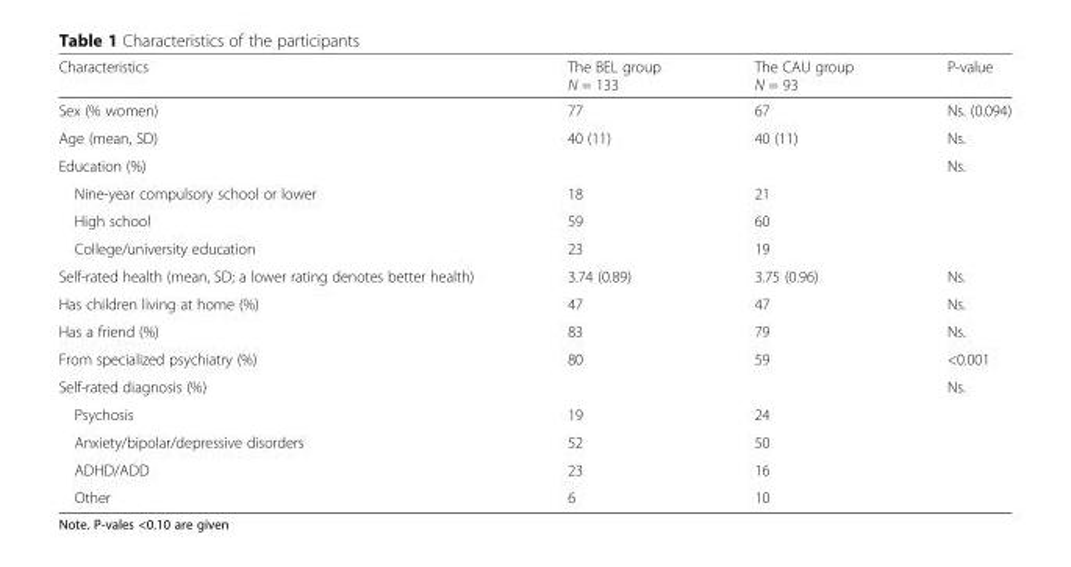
<table><thead><tr><td>Characteristics</td><td>The BEL group N = 133</td><td>The CAU group N = 93</td><td>P-value</td></tr></thead><tbody><tr><td>Sex (% women)</td><td>77</td><td>67</td><td>Ns. (0.094)</td></tr><tr><td>Age (mean, SD)</td><td>40 (11)</td><td>40 (11)</td><td>Ns.</td></tr><tr><td>Education (%)</td><td></td><td></td><td>Ns.</td></tr><tr><td>Nine-year compulsory school or lower</td><td>18</td><td>21</td><td></td></tr><tr><td>High school</td><td>59</td><td>60</td><td></td></tr><tr><td>College/university education</td><td>23</td><td>19</td><td></td></tr><tr><td>Self-rated health (mean, SD; a lower rating denotes better health)</td><td>3.74 (0.89)</td><td>3.75 (0.96)</td><td>Ns.</td></tr><tr><td>Has children living at home (%)</td><td>47</td><td>47</td><td>Ns.</td></tr><tr><td>Has a friend (%)</td><td>83</td><td>79</td><td>Ns.</td></tr><tr><td>From specialized psychiatry (%)</td><td>80</td><td>59</td><td>&lt;0.001</td></tr><tr><td>Self-rated diagnosis (%)</td><td></td><td></td><td>Ns.</td></tr><tr><td>Psychosis</td><td>19</td><td>24</td><td></td></tr><tr><td>Anxiety/bipolar/depressive disorders</td><td>52</td><td>50</td><td></td></tr><tr><td>ADHD/ADD</td><td>23</td><td>16</td><td></td></tr><tr><td>Other</td><td>6</td><td>10</td><td></td></tr></tbody></table>